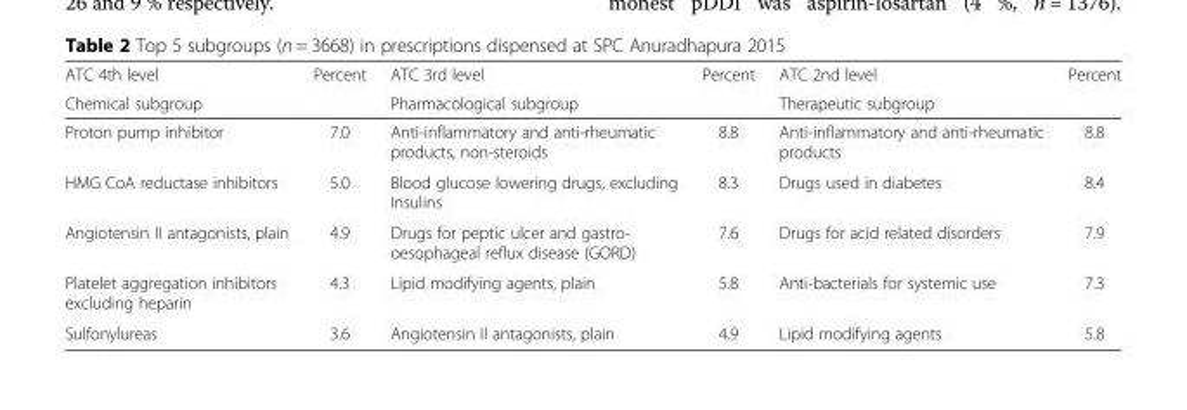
<table><thead><tr><td rowspan="2">ATC 4th level Chemical subgroup</td><td rowspan="2">Percent</td><td rowspan="2">ATC 3rd level Pharmacological subgroup</td><td rowspan="2">Percent</td><td rowspan="2">ATC 2nd level Therapeutic subgroup</td><td rowspan="2">Percent</td></tr><tr></tr></thead><tbody><tr><td>Proton pump inhibitor</td><td>7.0</td><td>Anti-inflammatory and anti-rheumatic products, non-steroids</td><td>8.8</td><td>Anti-inflammatory and anti-rheumatic products</td><td>8.8</td></tr><tr><td>HMG CoA reductase inhibitors</td><td>5.0</td><td>Blood glucose lowering drugs, excluding Insulins</td><td>8.3</td><td>Drugs used in diabetes</td><td>8.4</td></tr><tr><td>Angiotensin II antagonists, plain</td><td>4.9</td><td>Drugs for peptic ulcer and gastro- oesophageal reflux disease (GORD)</td><td>7.6</td><td>Drugs for acid related disorders</td><td>7.9</td></tr><tr><td>Platelet aggregation inhibitors excluding heparin</td><td>4.3</td><td>Lipid modifying agents, plain</td><td>5.8</td><td>Anti-bacterials for systemic use</td><td>7.3</td></tr><tr><td>Sulfonylureas</td><td>3.6</td><td>Angiotensin II antagonists, plain</td><td>4.9</td><td>Lipid modifying agents</td><td>5.8</td></tr></tbody></table>